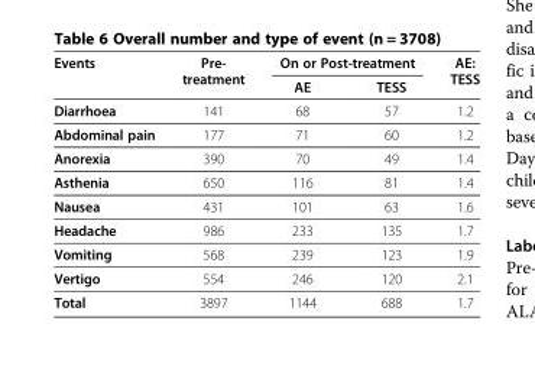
<table><thead><tr><td rowspan="2">Events</td><td rowspan="2">Pre- treatment</td><td colspan="2">On or Post-treatment</td><td rowspan="2">AE: TESS</td></tr><tr><td>AE</td><td>TESS</td></tr></thead><tbody><tr><td>Diarrhoea</td><td>141</td><td>68</td><td>57</td><td>1.2</td></tr><tr><td>Abdominal pain</td><td>177</td><td>71</td><td>60</td><td>1.2</td></tr><tr><td>Anorexia</td><td>390</td><td>70</td><td>49</td><td>1.4</td></tr><tr><td>Asthenia</td><td>650</td><td>116</td><td>81</td><td>1.4</td></tr><tr><td>Nausea</td><td>431</td><td>101</td><td>63</td><td>1.6</td></tr><tr><td>Headache</td><td>986</td><td>233</td><td>135</td><td>1.7</td></tr><tr><td>Vomiting</td><td>568</td><td>239</td><td>123</td><td>1.9</td></tr><tr><td>Vertigo</td><td>554</td><td>246</td><td>120</td><td>2.1</td></tr><tr><td>Total</td><td>3897</td><td>1144</td><td>688</td><td>1.7</td></tr></tbody></table>